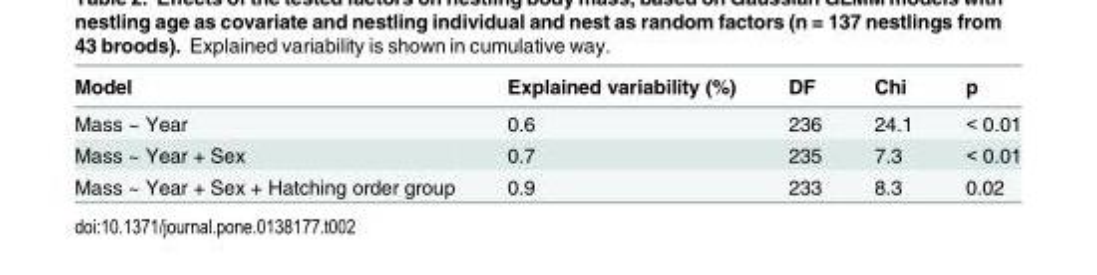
<table><thead><tr><td>Model</td><td>Explained variability (%)</td><td>DF</td><td>Chi</td><td>p</td></tr></thead><tbody><tr><td>Mass ~ Year</td><td>0.6</td><td>236</td><td>24.1</td><td>&lt; 0.01</td></tr><tr><td>Mass ~ Year + Sex</td><td>0.7</td><td>235</td><td>7.3</td><td>&lt; 0.01</td></tr><tr><td>Mass ~ Year + Sex + Hatching order group</td><td>0.9</td><td>233</td><td>8.3</td><td>0.02</td></tr></tbody></table>